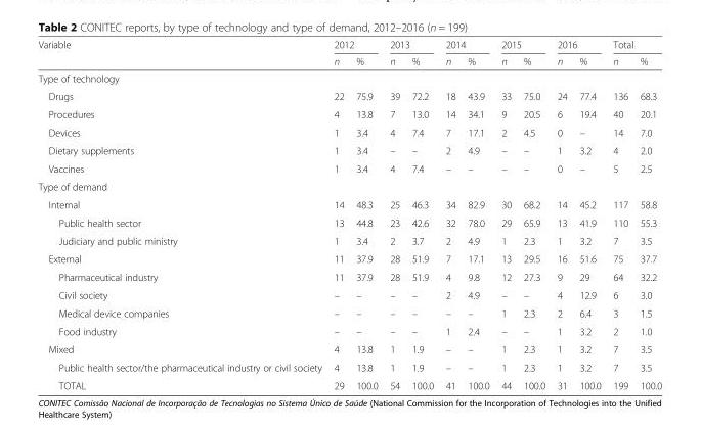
<table><thead><tr><td rowspan="2">Variable</td><td colspan="2">2012</td><td colspan="2">2013</td><td colspan="2">2014</td><td colspan="2">2015</td><td colspan="2">2016</td><td colspan="2">Total</td></tr><tr><td>n</td><td>%</td><td>n</td><td>%</td><td>n</td><td>%</td><td>n</td><td>%</td><td>n</td><td>%</td><td>n</td><td>%</td></tr></thead><tbody><tr><td colspan="13">Type of technology</td></tr><tr><td>Drugs</td><td>22</td><td>75.9</td><td>39</td><td>72.2</td><td>18</td><td>43.9</td><td>33</td><td>75.0</td><td>24</td><td>77.4</td><td>136</td><td>68.3</td></tr><tr><td>Procedures</td><td>4</td><td>13.8</td><td>7</td><td>13.0</td><td>14</td><td>34.1</td><td>9</td><td>20.5</td><td>6</td><td>19.4</td><td>40</td><td>20.1</td></tr><tr><td>Devices</td><td>1</td><td>3.4</td><td>4</td><td>7.4</td><td>7</td><td>17.1</td><td>2</td><td>4.5</td><td>0</td><td>–</td><td>14</td><td>7.0</td></tr><tr><td>Dietary supplements</td><td>1</td><td>3.4</td><td>–</td><td>–</td><td>2</td><td>4.9</td><td>–</td><td>–</td><td>1</td><td>3.2</td><td>4</td><td>2.0</td></tr><tr><td>Vaccines</td><td>1</td><td>3.4</td><td>4</td><td>7.4</td><td>–</td><td>–</td><td>–</td><td>–</td><td>0</td><td>–</td><td>5</td><td>2.5</td></tr><tr><td colspan="13">Type of demand</td></tr><tr><td>Internal</td><td>14</td><td>48.3</td><td>25</td><td>46.3</td><td>34</td><td>82.9</td><td>30</td><td>68.2</td><td>14</td><td>45.2</td><td>117</td><td>58.8</td></tr><tr><td>Public health sector</td><td>13</td><td>44.8</td><td>23</td><td>42.6</td><td>32</td><td>78.0</td><td>29</td><td>65.9</td><td>13</td><td>41.9</td><td>110</td><td>55.3</td></tr><tr><td>Judiciary and public ministry</td><td>1</td><td>3.4</td><td>2</td><td>3.7</td><td>2</td><td>4.9</td><td>1</td><td>2.3</td><td>1</td><td>3.2</td><td>7</td><td>3.5</td></tr><tr><td>External</td><td>11</td><td>37.9</td><td>28</td><td>51.9</td><td>7</td><td>17.1</td><td>13</td><td>29.5</td><td>16</td><td>51.6</td><td>75</td><td>37.7</td></tr><tr><td>Pharmaceutical industry</td><td>11</td><td>37.9</td><td>28</td><td>51.9</td><td>4</td><td>9.8</td><td>12</td><td>27.3</td><td>9</td><td>29</td><td>64</td><td>32.2</td></tr><tr><td>Civil society</td><td>–</td><td>–</td><td>–</td><td>–</td><td>2</td><td>4.9</td><td>–</td><td>–</td><td>4</td><td>12.9</td><td>6</td><td>3.0</td></tr><tr><td>Medical device companies</td><td>–</td><td>–</td><td>–</td><td>–</td><td>–</td><td>–</td><td>1</td><td>2.3</td><td>2</td><td>6.4</td><td>3</td><td>1.5</td></tr><tr><td>Food industry</td><td>–</td><td>–</td><td>–</td><td>–</td><td>1</td><td>2.4</td><td>–</td><td>–</td><td>1</td><td>3.2</td><td>2</td><td>1.0</td></tr><tr><td>Mixed</td><td>4</td><td>13.8</td><td>1</td><td>1.9</td><td>–</td><td>–</td><td>1</td><td>2.3</td><td>1</td><td>3.2</td><td>7</td><td>3.5</td></tr><tr><td>Public health sector/the pharmaceutical industry or civil society</td><td>4</td><td>13.8</td><td>1</td><td>1.9</td><td>–</td><td>–</td><td>1</td><td>2.3</td><td>1</td><td>3.2</td><td>7</td><td>3.5</td></tr><tr><td>TOTAL</td><td>29</td><td>100.0</td><td>54</td><td>100.0</td><td>41</td><td>100.0</td><td>44</td><td>100.0</td><td>31</td><td>100.0</td><td>199</td><td>100.0</td></tr></tbody></table>